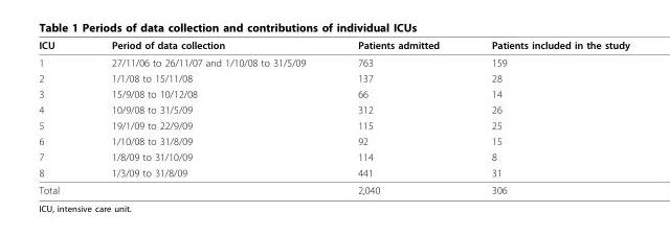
<table><thead><tr><td>ICU</td><td>Period of data collection</td><td>Patients admitted</td><td>Patients included in the study</td></tr></thead><tbody><tr><td>1</td><td>27/11/06 to 26/11/07 and 1/10/08 to 31/5/09</td><td>763</td><td>159</td></tr><tr><td>2</td><td>1/1/08 to 15/11/08</td><td>137</td><td>28</td></tr><tr><td>3</td><td>15/9/08 to 10/12/08</td><td>66</td><td>14</td></tr><tr><td>4</td><td>10/9/08 to 31/5/09</td><td>312</td><td>26</td></tr><tr><td>5</td><td>19/1/09 to 22/9/09</td><td>115</td><td>25</td></tr><tr><td>6</td><td>1/10/08 to 31/8/09</td><td>92</td><td>15</td></tr><tr><td>7</td><td>1/8/09 to 31/10/09</td><td>114</td><td>8</td></tr><tr><td>8</td><td>1/3/09 to 31/8/09</td><td>441</td><td>31</td></tr><tr><td>Total</td><td></td><td>2,040</td><td>306</td></tr></tbody></table>